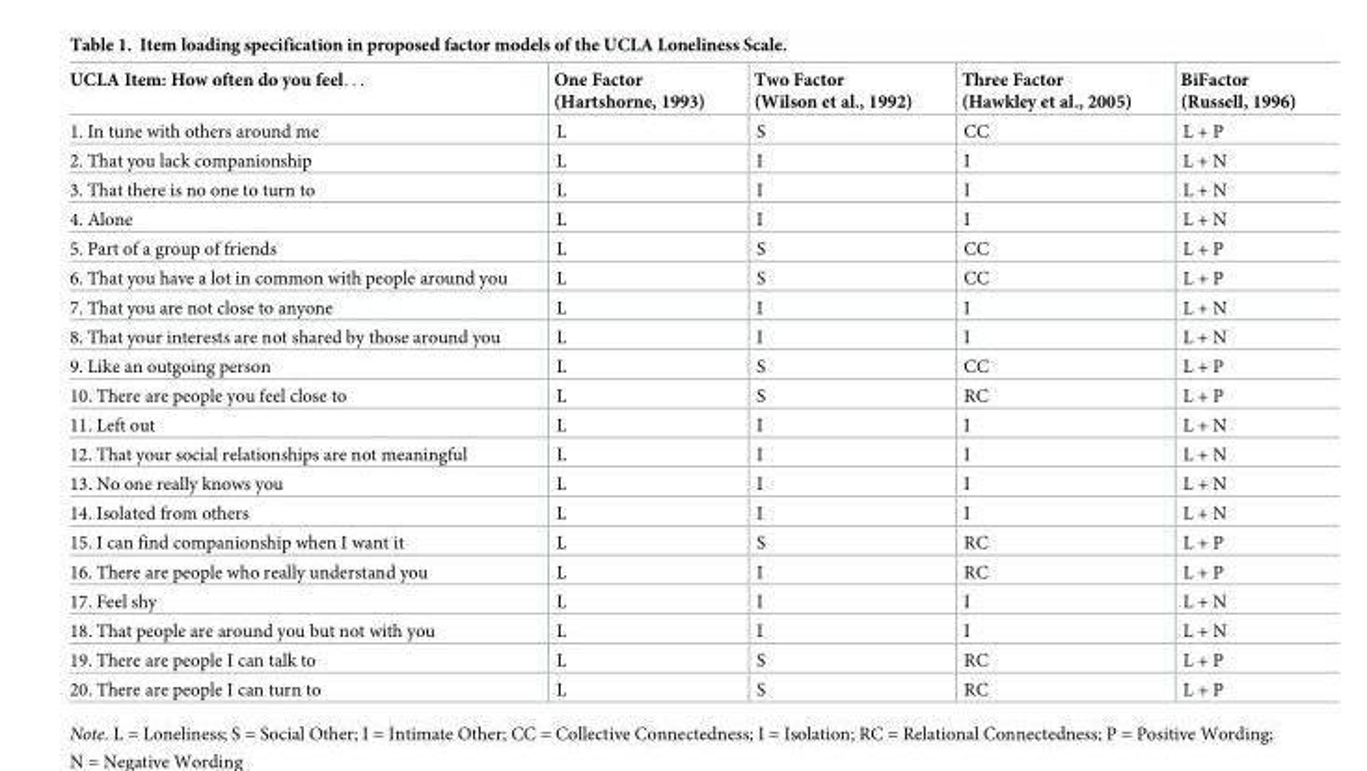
<table><thead><tr><td>UCLA Item: How often do you feel. . .</td><td>One Factor (Hartshorne, 1993)</td><td>Two Factor (Wilson et al., 1992)</td><td>Three Factor (Hawkley et al., 2005)</td><td>BiFactor (Russell, 1996)</td></tr></thead><tbody><tr><td>1. In tune with others around me</td><td>L</td><td>S</td><td>CC</td><td>L + P</td></tr><tr><td>2. That you lack companionship</td><td>L</td><td>I</td><td>I</td><td>L + N</td></tr><tr><td>3. That there is no one to turn to</td><td>L</td><td>I</td><td>I</td><td>L + N</td></tr><tr><td>4. Alone</td><td>L</td><td>I</td><td>I</td><td>L + N</td></tr><tr><td>5. Part of a group of friends</td><td>L</td><td>S</td><td>CC</td><td>L + P</td></tr><tr><td>6. That you have a lot in common with people around you</td><td>L</td><td>S</td><td>CC</td><td>L + P</td></tr><tr><td>7. That you are not close to anyone</td><td>L</td><td>I</td><td>I</td><td>L + N</td></tr><tr><td>8. That your interests are not shared by those around you</td><td>L</td><td>I</td><td>I</td><td>L + N</td></tr><tr><td>9. Like an outgoing person</td><td>L</td><td>S</td><td>CC</td><td>L + P</td></tr><tr><td>10. There are people you feel close to</td><td>L</td><td>S</td><td>RC</td><td>L + P</td></tr><tr><td>11. Left out</td><td>L</td><td>I</td><td>I</td><td>L + N</td></tr><tr><td>12. That your social relationships are not meaningful</td><td>L</td><td>I</td><td>I</td><td>L + N</td></tr><tr><td>13. No one really knows you</td><td>L</td><td>I</td><td>I</td><td>L + N</td></tr><tr><td>14. Isolated from others</td><td>L</td><td>I</td><td>I</td><td>L + N</td></tr><tr><td>15. I can find companionship when I want it</td><td>L</td><td>S</td><td>RC</td><td>L + P</td></tr><tr><td>16. There are people who really understand you</td><td>L</td><td>I</td><td>RC</td><td>L + P</td></tr><tr><td>17. Feel shy</td><td>L</td><td>I</td><td>I</td><td>L + N</td></tr><tr><td>18. That people are around you but not with you</td><td>L</td><td>I</td><td>I</td><td>L + N</td></tr><tr><td>19. There are people I can talk to</td><td>L</td><td>S</td><td>RC</td><td>L + P</td></tr><tr><td>20. There are people I can turn to</td><td>L</td><td>S</td><td>RC</td><td>L + P</td></tr></tbody></table>